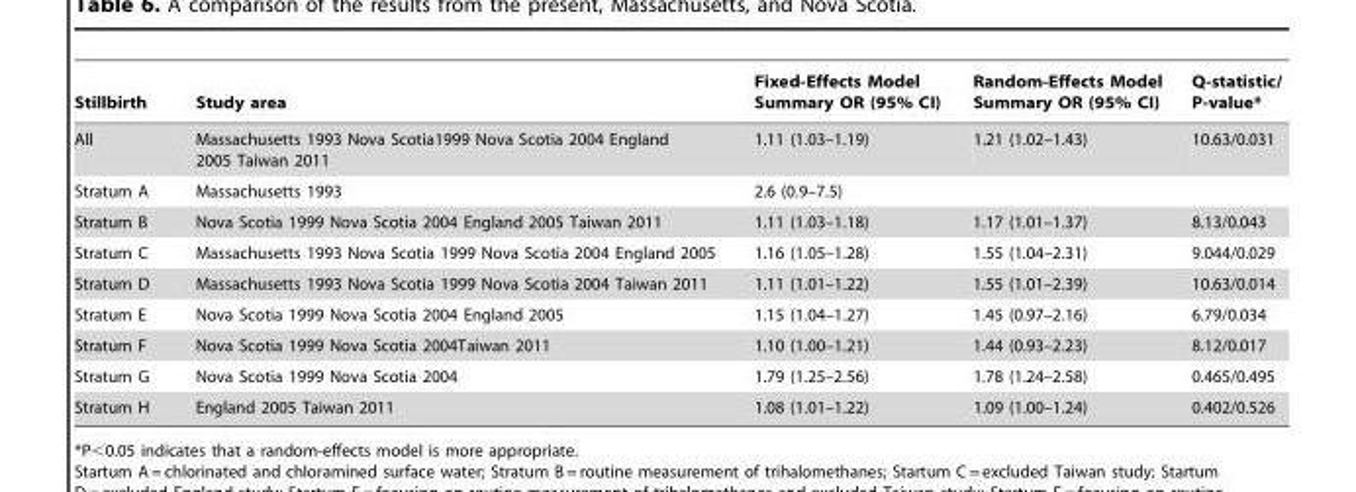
<table><thead><tr><td>Stillbirth</td><td>Study area</td><td>Fixed-Effects Model Summary OR (95% CI)</td><td>Random-Effects Model Summary OR (95% CI)</td><td>Q-statistic/ P-value*</td></tr></thead><tbody><tr><td>All</td><td>Massachusetts 1993 Nova Scotia1999 Nova Scotia 2004 England 2005 Taiwan 2011</td><td>1.11 (1.03–1.19)</td><td>1.21 (1.02–1.43)</td><td>10.63/0.031</td></tr><tr><td>Stratum A</td><td>Massachusetts 1993</td><td>2.6 (0.9–7.5)</td><td></td><td></td></tr><tr><td>Stratum B</td><td>Nova Scotia 1999 Nova Scotia 2004 England 2005 Taiwan 2011</td><td>1.11 (1.03–1.18)</td><td>1.17 (1.01–1.37)</td><td>8.13/0.043</td></tr><tr><td>Stratum C</td><td>Massachusetts 1993 Nova Scotia 1999 Nova Scotia 2004 England 2005</td><td>1.16 (1.05–1.28)</td><td>1.55 (1.04–2.31)</td><td>9.044/0.029</td></tr><tr><td>Stratum D</td><td>Massachusetts 1993 Nova Scotia 1999 Nova Scotia 2004 Taiwan 2011</td><td>1.11 (1.01–1.22)</td><td>1.55 (1.01–2.39)</td><td>10.63/0.014</td></tr><tr><td>Stratum E</td><td>Nova Scotia 1999 Nova Scotia 2004 England 2005</td><td>1.15 (1.04–1.27)</td><td>1.45 (0.97–2.16)</td><td>6.79/0.034</td></tr><tr><td>Stratum F</td><td>Nova Scotia 1999 Nova Scotia 2004Taiwan 2011</td><td>1.10 (1.00–1.21)</td><td>1.44 (0.93–2.23)</td><td>8.12/0.017</td></tr><tr><td>Stratum G</td><td>Nova Scotia 1999 Nova Scotia 2004</td><td>1.79 (1.25–2.56)</td><td>1.78 (1.24–2.58)</td><td>0.465/0.495</td></tr><tr><td>Stratum H</td><td>England 2005 Taiwan 2011</td><td>1.08 (1.01–1.22)</td><td>1.09 (1.00–1.24)</td><td>0.402/0.526</td></tr></tbody></table>